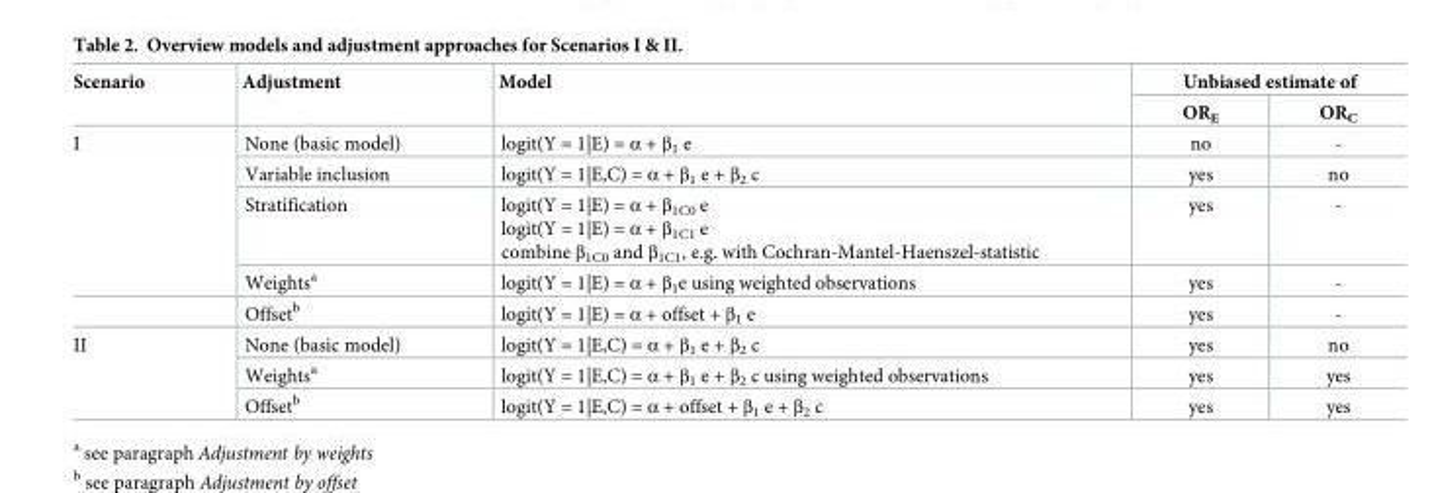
<table><thead><tr><td rowspan="2">Scenario</td><td rowspan="2">Adjustment</td><td rowspan="2">Model</td><td colspan="2">Unbiased estimate of</td></tr><tr><td>OR<sub>E</sub></td><td>OR<sub>C</sub></td></tr></thead><tbody><tr><td rowspan="5">I</td><td>None (basic model)</td><td>logit(Y = 1|E) = α + β<sub>1</sub> e</td><td>no</td><td>-</td></tr><tr><td>Variable inclusion</td><td>logit(Y = 1|E,C) = α + β<sub>1</sub> e + β<sub>2</sub> c</td><td>yes</td><td>no</td></tr><tr><td>Stratification</td><td>logit(Y = 1|E) = α + β<sub>1C0</sub> e logit(Y = 1|E) = α + β<sub>1C1</sub> e combine β<sub>1C0</sub> and β<sub>1C1</sub>, e.g. with Cochran-Mantel-Haenszel-statistic</td><td>yes</td><td>-</td></tr><tr><td>Weights<sup>a</sup></td><td>logit(Y = 1|E) = α + β<sub>1</sub>e using weighted observations</td><td>yes</td><td>-</td></tr><tr><td>Offset<sup>b</sup></td><td>logit(Y = 1|E) = α + offset + β<sub>1</sub> e</td><td>yes</td><td>-</td></tr><tr><td rowspan="3">II</td><td>None (basic model)</td><td>logit(Y = 1|E,C) = α + β<sub>1</sub> e + β<sub>2</sub> c</td><td>yes</td><td>no</td></tr><tr><td>Weights<sup>a</sup></td><td>logit(Y = 1|E,C) = α + β<sub>1</sub> e + β<sub>2</sub> c using weighted observations</td><td>yes</td><td>yes</td></tr><tr><td>Offset<sup>b</sup></td><td>logit(Y = 1|E,C) = α + offset + β<sub>1</sub> e + β<sub>2</sub> c</td><td>yes</td><td>yes</td></tr></tbody></table>